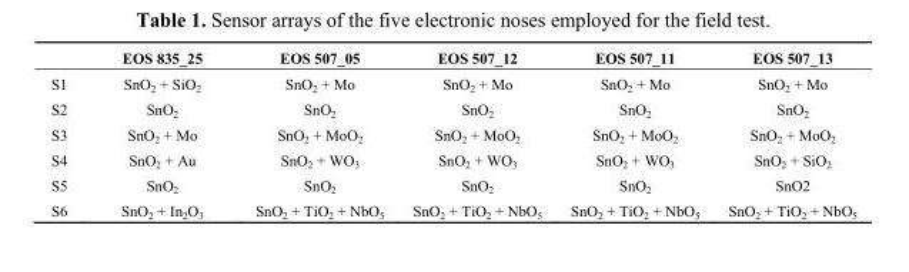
<table><thead><tr><td></td><td>EOS 835_25</td><td>EOS 507_05</td><td>EOS 507_12</td><td>EOS 507_11</td><td>EOS 507_13</td></tr></thead><tbody><tr><td>S1</td><td>SnO<sub>2</sub> + SiO<sub>2</sub></td><td>SnO<sub>2</sub> + Mo</td><td>SnO<sub>2</sub> + Mo</td><td>SnO<sub>2</sub> + Mo</td><td>SnO<sub>2</sub> + Mo</td></tr><tr><td>S2</td><td>SnO<sub>2</sub></td><td>SnO<sub>2</sub></td><td>SnO<sub>2</sub></td><td>SnO<sub>2</sub></td><td>SnO<sub>2</sub></td></tr><tr><td>S3</td><td>SnO<sub>2</sub> + Mo</td><td>SnO<sub>2</sub> + MoO<sub>2</sub></td><td>SnO<sub>2</sub> + MoO<sub>2</sub></td><td>SnO<sub>2</sub> + MoO<sub>2</sub></td><td>SnO<sub>2</sub> + MoO<sub>2</sub></td></tr><tr><td>S4</td><td>SnO<sub>2</sub> + Au</td><td>SnO<sub>2</sub> + WO<sub>3</sub></td><td>SnO<sub>2</sub> + WO<sub>3</sub></td><td>SnO<sub>2</sub> + WO<sub>3</sub></td><td>SnO<sub>2</sub> + SiO<sub>2</sub></td></tr><tr><td>S5</td><td>SnO<sub>2</sub></td><td>SnO<sub>2</sub></td><td>SnO<sub>2</sub></td><td>SnO<sub>2</sub></td><td>SnO2</td></tr><tr><td>S6</td><td>SnO<sub>2</sub> + In<sub>2</sub>O<sub>3</sub></td><td>SnO<sub>2</sub> + TiO<sub>2</sub> + NbO<sub>5</sub></td><td>SnO<sub>2</sub> + TiO<sub>2</sub> + NbO<sub>5</sub></td><td>SnO<sub>2</sub> + TiO<sub>2</sub> + NbO<sub>5</sub></td><td>SnO<sub>2</sub> + TiO<sub>2</sub> + NbO<sub>5</sub></td></tr></tbody></table>